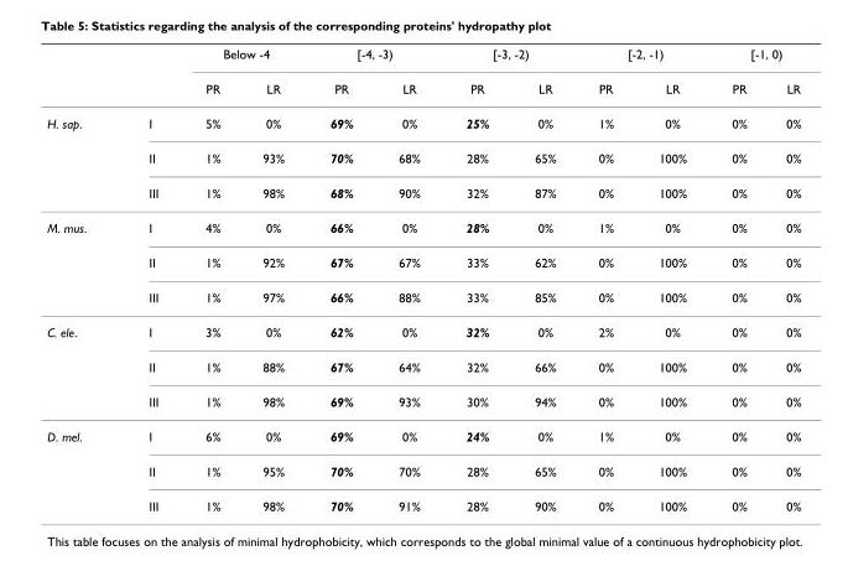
<table><thead><tr><td rowspan="2"></td><td rowspan="2"></td><td colspan="2">Below -4</td><td colspan="2">[-4, -3)</td><td colspan="2">[-3, -2)</td><td colspan="2">[-2, -1)</td><td colspan="2">[-1, 0)</td></tr><tr><td>PR</td><td>LR</td><td>PR</td><td>LR</td><td>PR</td><td>LR</td><td>PR</td><td>LR</td><td>PR</td><td>LR</td></tr></thead><tbody><tr><td rowspan="3">H. sap.</td><td>I</td><td>5%</td><td>0%</td><td>69%</td><td>0%</td><td>25%</td><td>0%</td><td>1%</td><td>0%</td><td>0%</td><td>0%</td></tr><tr><td>II</td><td>1%</td><td>93%</td><td>70%</td><td>68%</td><td>28%</td><td>65%</td><td>0%</td><td>100%</td><td>0%</td><td>0%</td></tr><tr><td>III</td><td>1%</td><td>98%</td><td>68%</td><td>90%</td><td>32%</td><td>87%</td><td>0%</td><td>100%</td><td>0%</td><td>0%</td></tr><tr><td rowspan="3">M. mus.</td><td>I</td><td>4%</td><td>0%</td><td>66%</td><td>0%</td><td>28%</td><td>0%</td><td>1%</td><td>0%</td><td>0%</td><td>0%</td></tr><tr><td>II</td><td>1%</td><td>92%</td><td>67%</td><td>67%</td><td>33%</td><td>62%</td><td>0%</td><td>100%</td><td>0%</td><td>0%</td></tr><tr><td>III</td><td>1%</td><td>97%</td><td>66%</td><td>88%</td><td>33%</td><td>85%</td><td>0%</td><td>100%</td><td>0%</td><td>0%</td></tr><tr><td rowspan="3">C. ele.</td><td>I</td><td>3%</td><td>0%</td><td>62%</td><td>0%</td><td>32%</td><td>0%</td><td>2%</td><td>0%</td><td>0%</td><td>0%</td></tr><tr><td>II</td><td>1%</td><td>88%</td><td>67%</td><td>64%</td><td>32%</td><td>66%</td><td>0%</td><td>100%</td><td>0%</td><td>0%</td></tr><tr><td>III</td><td>1%</td><td>98%</td><td>69%</td><td>93%</td><td>30%</td><td>94%</td><td>0%</td><td>100%</td><td>0%</td><td>0%</td></tr><tr><td rowspan="3">D. mel.</td><td>I</td><td>6%</td><td>0%</td><td>69%</td><td>0%</td><td>24%</td><td>0%</td><td>1%</td><td>0%</td><td>0%</td><td>0%</td></tr><tr><td>II</td><td>1%</td><td>95%</td><td>70%</td><td>70%</td><td>28%</td><td>65%</td><td>0%</td><td>100%</td><td>0%</td><td>0%</td></tr><tr><td>III</td><td>1%</td><td>98%</td><td>70%</td><td>91%</td><td>28%</td><td>90%</td><td>0%</td><td>100%</td><td>0%</td><td>0%</td></tr></tbody></table>